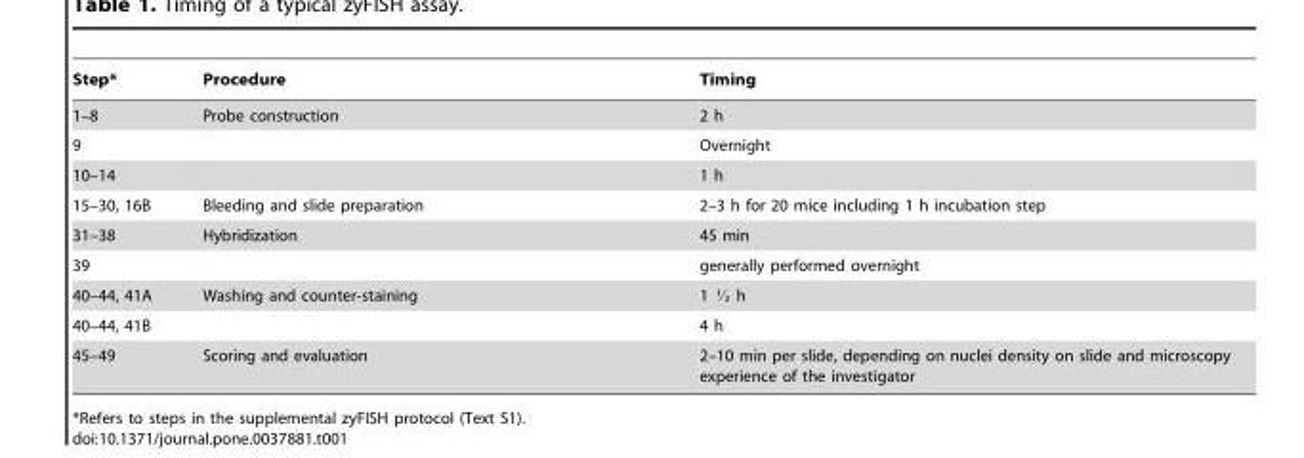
<table><thead><tr><td>Step*</td><td>Procedure</td><td>Timing</td></tr></thead><tbody><tr><td>1–8</td><td>Probe construction</td><td>2 h</td></tr><tr><td>9</td><td></td><td>Overnight</td></tr><tr><td>10–14</td><td></td><td>1 h</td></tr><tr><td>15–30, 16B</td><td>Bleeding and slide preparation</td><td>2–3 h for 20 mice including 1 h incubation step</td></tr><tr><td>31–38</td><td>Hybridization</td><td>45 min</td></tr><tr><td>39</td><td></td><td>generally performed overnight</td></tr><tr><td>40–44, 41A</td><td>Washing and counter-staining</td><td>1 K h</td></tr><tr><td>40–44, 41B</td><td></td><td>4 h</td></tr><tr><td>45–49</td><td>Scoring and evaluation</td><td>2–10 min per slide, depending on nuclei density on slide and microscopy experience of the investigator</td></tr></tbody></table>